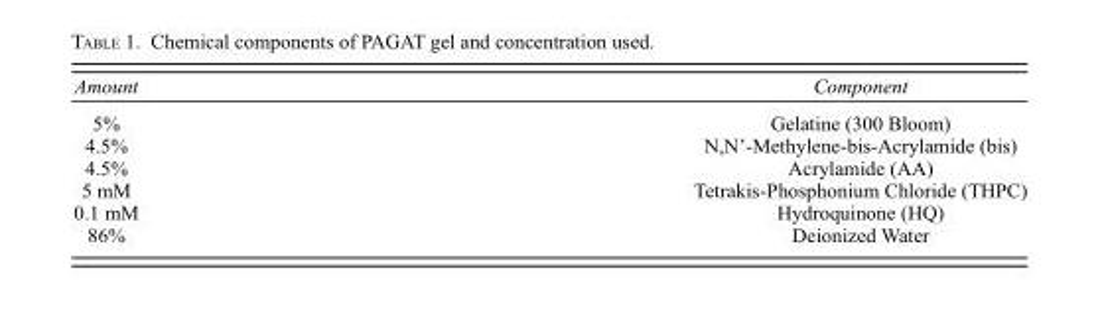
<table><thead><tr><td>Amount</td><td>Component</td></tr></thead><tbody><tr><td>5%</td><td>Gelatine (300 Bloom)</td></tr><tr><td>4.5%</td><td>N,N’-Methylene-bis-Acrylamide (bis)</td></tr><tr><td>4.5%</td><td>Acrylamide (AA)</td></tr><tr><td>5 mM</td><td>Tetrakis-Phosphonium Chloride (THPC)</td></tr><tr><td>0.1 mM</td><td>Hydroquinone (HQ)</td></tr><tr><td>86%</td><td>Deionized Water</td></tr></tbody></table>